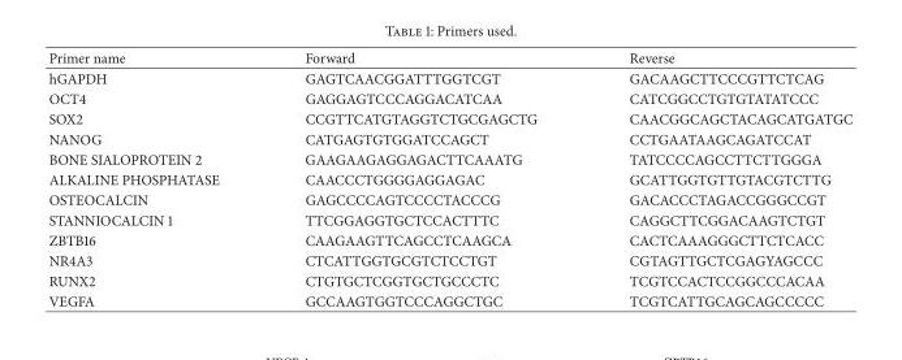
<table><thead><tr><td>Primer name</td><td>Forward</td><td>Reverse</td></tr></thead><tbody><tr><td>hGAPDH</td><td>GAGTCAACGGATTTGGTCGT</td><td>GACAAGCTTCCCGTTCTCAG</td></tr><tr><td>OCT4</td><td>GAGGAGTCCCAGGACATCAA</td><td>CATCGGCCTGTGTATATCCC</td></tr><tr><td>SOX2</td><td>CCGTTCATGTAGGTCTGCGAGCTG</td><td>CAACGGCAGCTACAGCATGATGC</td></tr><tr><td>NANOG</td><td>CATGAGTGTGGATCCAGCT</td><td>CCTGAATAAGCAGATCCAT</td></tr><tr><td>BONE SIALOPROTEIN 2</td><td>GAAGAAGAGGAGACTTCAAATG</td><td>TATCCCCAGCCTTCTTGGGA</td></tr><tr><td>ALKALINE PHOSPHATASE</td><td>CAACCCTGGGGAGGAGAC</td><td>GCATTGGTGTTGTACGTCTTG</td></tr><tr><td>OSTEOCALCIN</td><td>GAGCCCCAGTCCCCTACCCG</td><td>GACACCCTAGACCGGGCCGT</td></tr><tr><td>STANNIOCALCIN 1</td><td>TTCGGAGGTGCTCCACTTTC</td><td>CAGGCTTCGGACAAGTCTGT</td></tr><tr><td>ZBTB16</td><td>CAAGAAGTTCAGCCTCAAGCA</td><td>CACTCAAAGGGCTTCTCACC</td></tr><tr><td>NR4A3</td><td>CTCATTGGTGCGTCTCCTGT</td><td>CGTAGTTGCTCGAGYAGCCC</td></tr><tr><td>RUNX2</td><td>CTGTGCTCGGTGCTGCCCTC</td><td>TCGTCCACTCCGGCCCACAA</td></tr><tr><td>VEGFA</td><td>GCCAAGTGGTCCCAGGCTGC</td><td>TCGTCATTGCAGCAGCCCCC</td></tr></tbody></table>